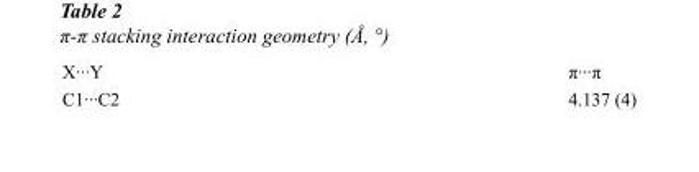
<table><tbody><tr><td>X···Y</td><td>π···π</td></tr><tr><td>C1···C2</td><td>4.137 (4)</td></tr></tbody></table>